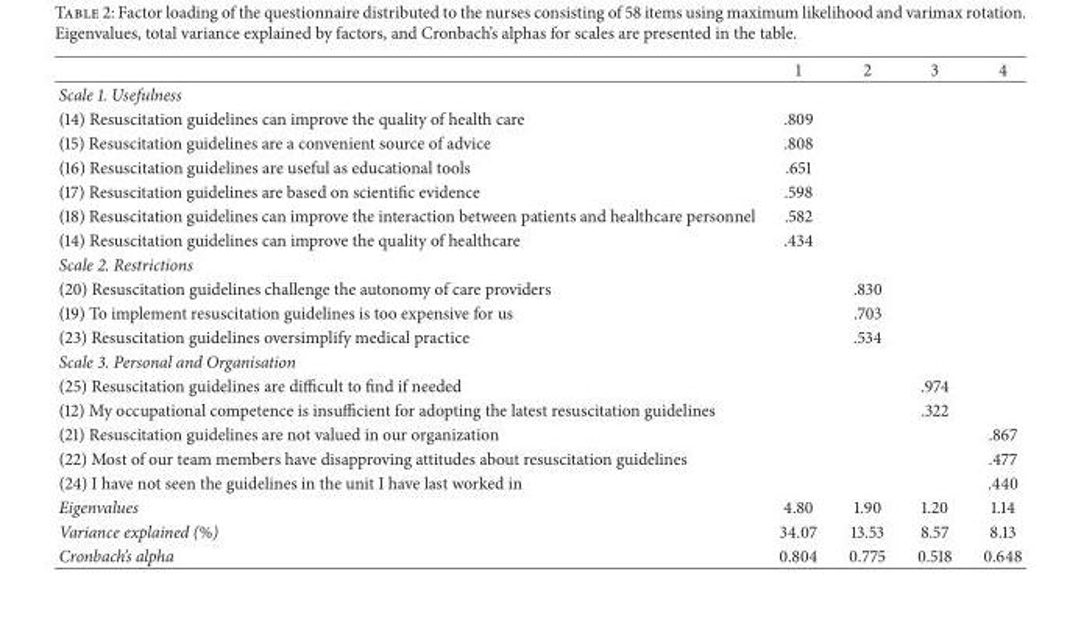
<table><thead><tr><td></td><td>1</td><td>2</td><td>3</td><td>4</td></tr></thead><tbody><tr><td colspan="5">Scale 1. Usefulness</td></tr><tr><td>(14) Resuscitation guidelines can improve the quality of health care</td><td>.809</td><td></td><td></td><td></td></tr><tr><td>(15) Resuscitation guidelines are a convenient source of advice</td><td>.808</td><td></td><td></td><td></td></tr><tr><td>(16) Resuscitation guidelines are useful as educational tools</td><td>.651</td><td></td><td></td><td></td></tr><tr><td>(17) Resuscitation guidelines are based on scientific evidence</td><td>.598</td><td></td><td></td><td></td></tr><tr><td>(18) Resuscitation guidelines can improve the interaction between patients and healthcare personnel</td><td>.582</td><td></td><td></td><td></td></tr><tr><td>(14) Resuscitation guidelines can improve the quality of healthcare</td><td>.434</td><td></td><td></td><td></td></tr><tr><td colspan="5">Scale 2. Restrictions</td></tr><tr><td>(20) Resuscitation guidelines challenge the autonomy of care providers</td><td></td><td>.830</td><td></td><td></td></tr><tr><td>(19) To implement resuscitation guidelines is too expensive for us</td><td></td><td>.703</td><td></td><td></td></tr><tr><td>(23) Resuscitation guidelines oversimplify medical practice</td><td></td><td>.534</td><td></td><td></td></tr><tr><td colspan="5">Scale 3. Personal and Organisation</td></tr><tr><td>(25) Resuscitation guidelines are difficult to find if needed</td><td></td><td></td><td>.974</td><td></td></tr><tr><td>(12) My occupational competence is insufficient for adopting the latest resuscitation guidelines</td><td></td><td></td><td>.322</td><td></td></tr><tr><td>(21) Resuscitation guidelines are not valued in our organization</td><td></td><td></td><td></td><td>.867</td></tr><tr><td>(22) Most of our team members have disapproving attitudes about resuscitation guidelines</td><td></td><td></td><td></td><td>.477</td></tr><tr><td>(24) I have not seen the guidelines in the unit I have last worked in</td><td></td><td></td><td></td><td>.440</td></tr><tr><td>Eigenvalues</td><td>4.80</td><td>1.90</td><td>1.20</td><td>1.14</td></tr><tr><td>Variance explained (%)</td><td>34.07</td><td>13.53</td><td>8.57</td><td>8.13</td></tr><tr><td>Cronbach’s alpha</td><td>0.804</td><td>0.775</td><td>0.518</td><td>0.648</td></tr></tbody></table>